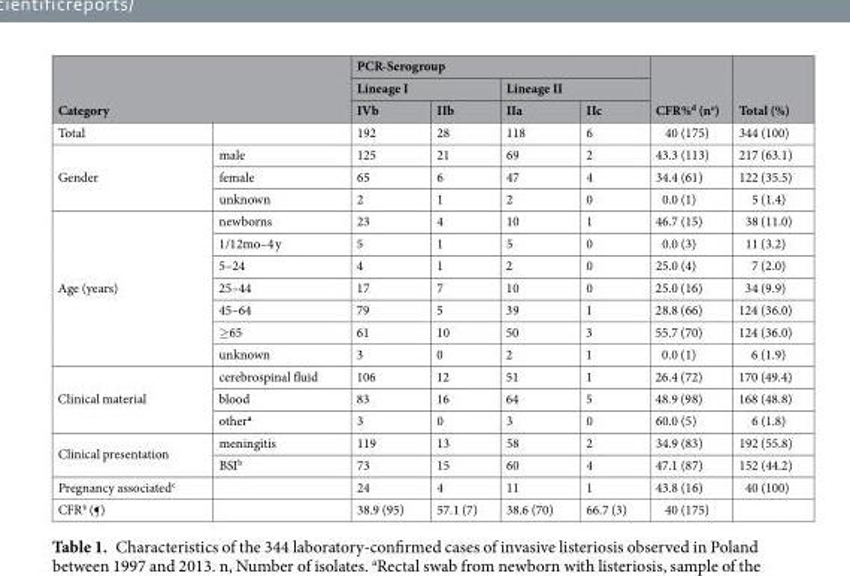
<table><thead><tr><td rowspan="3" colspan="2">Category</td><td colspan="4">PCR-Serogroup</td><td rowspan="4">CFR%<sup>d</sup> (n<sup>e</sup>) 40 (175)</td><td rowspan="4">Total (%) 344 (100)</td></tr><tr><td colspan="2">Lineage I</td><td colspan="2">Lineage II</td></tr><tr><td rowspan="2">IVb 192</td><td rowspan="2">IIb 28</td><td rowspan="2">IIa 118</td><td rowspan="2">IIc 6</td></tr><tr><td>Total</td><td></td></tr></thead><tbody><tr><td rowspan="3">Gender</td><td>male</td><td>125</td><td>21</td><td>69</td><td>2</td><td>43.3 (113)</td><td>217 (63.1)</td></tr><tr><td>female</td><td>65</td><td>6</td><td>47</td><td>4</td><td>34.4 (61)</td><td>122 (35.5)</td></tr><tr><td>unknown</td><td>2</td><td>1</td><td>2</td><td>0</td><td>0.0 (1)</td><td>5 (1.4)</td></tr><tr><td rowspan="7">Age (years)</td><td>newborns</td><td>23</td><td>4</td><td>10</td><td>1</td><td>46.7 (15)</td><td>38 (11.0)</td></tr><tr><td>1/12mo–4 y</td><td>5</td><td>1</td><td>5</td><td>0</td><td>0.0 (3)</td><td>11 (3.2)</td></tr><tr><td>5–24</td><td>4</td><td>1</td><td>2</td><td>0</td><td>25.0 (4)</td><td>7 (2.0)</td></tr><tr><td>25–44</td><td>17</td><td>7</td><td>10</td><td>0</td><td>25.0 (16)</td><td>34 (9.9)</td></tr><tr><td>45–64</td><td>79</td><td>5</td><td>39</td><td>1</td><td>28.8 (66)</td><td>124 (36.0)</td></tr><tr><td>≥65</td><td>61</td><td>10</td><td>50</td><td>3</td><td>55.7 (70)</td><td>124 (36.0)</td></tr><tr><td>unknown</td><td>3</td><td>0</td><td>2</td><td>1</td><td>0.0 (1)</td><td>6 (1.9)</td></tr><tr><td rowspan="3">Clinical material</td><td>cerebrospinal fluid</td><td>106</td><td>12</td><td>51</td><td>1</td><td>26.4 (72)</td><td>170 (49.4)</td></tr><tr><td>blood</td><td>83</td><td>16</td><td>64</td><td>5</td><td>48.9 (98)</td><td>168 (48.8)</td></tr><tr><td>other<sup>a</sup></td><td>3</td><td>0</td><td>3</td><td>0</td><td>60.0 (5)</td><td>6 (1.8)</td></tr><tr><td rowspan="2">Clinical presentation</td><td>meningitis</td><td>119</td><td>13</td><td>58</td><td>2</td><td>34.9 (83)</td><td>192 (55.8)</td></tr><tr><td>BSI<sup>b</sup></td><td>73</td><td>15</td><td>60</td><td>4</td><td>47.1 (87)</td><td>152 (44.2)</td></tr><tr><td>Pregnancy associated<sup>c</sup></td><td></td><td>24</td><td>4</td><td>11</td><td>1</td><td>43.8 (16)</td><td>40 (100)</td></tr><tr><td>CFR<sup>§</sup> (¶)</td><td></td><td>38.9 (95)</td><td>57.1 (7)</td><td>38.6 (70)</td><td>66.7 (3)</td><td>40 (175)</td><td></td></tr></tbody></table>